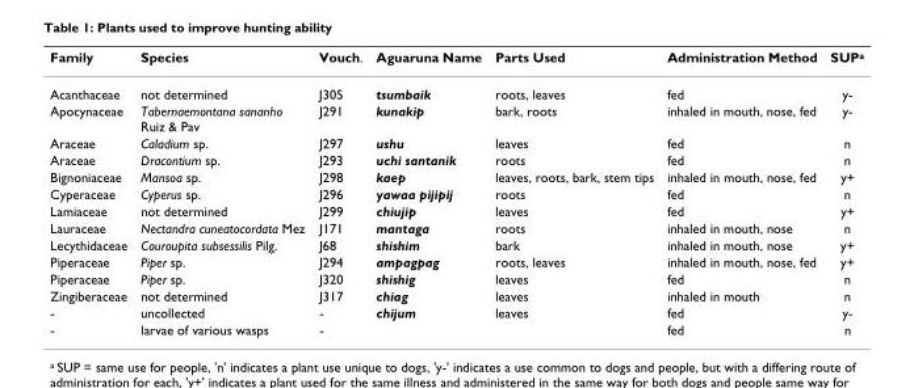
<table><thead><tr><td>Family</td><td>Species</td><td>Vouch.</td><td>Aguaruna Name</td><td>Parts Used</td><td>Administration Method</td><td>SUP<sup>a</sup></td></tr></thead><tbody><tr><td>Acanthaceae</td><td>not determined</td><td>J305</td><td>tsumbaik</td><td>roots, leaves</td><td>fed</td><td>y-</td></tr><tr><td>Apocynaceae</td><td>Tabernaemontana sananho Ruiz &amp; Pav</td><td>J291</td><td>kunakip</td><td>bark, roots</td><td>inhaled in mouth, nose, fed</td><td>y-</td></tr><tr><td>Araceae</td><td>Caladium sp.</td><td>J297</td><td>ushu</td><td>leaves</td><td>fed</td><td>n</td></tr><tr><td>Araceae</td><td>Dracontium sp.</td><td>J293</td><td>uchi santanik</td><td>roots</td><td>fed</td><td>n</td></tr><tr><td>Bignoniaceae</td><td>Mansoa sp.</td><td>J298</td><td>kaep</td><td>leaves, roots, bark, stem tips</td><td>inhaled in mouth, nose, fed</td><td>y+</td></tr><tr><td>Cyperaceae</td><td>Cyperus sp.</td><td>J296</td><td>yawaa pijipij</td><td>roots</td><td>fed</td><td>n</td></tr><tr><td>Lamiaceae</td><td>not determined</td><td>J299</td><td>chiujip</td><td>leaves</td><td>fed</td><td>y+</td></tr><tr><td>Lauraceae</td><td>Nectandra cuneatocordata Mez</td><td>J171</td><td>mantaga</td><td>roots</td><td>inhaled in mouth, nose</td><td>n</td></tr><tr><td>Lecythidaceae</td><td>Couroupita subsessilis Pilg.</td><td>J68</td><td>shishim</td><td>bark</td><td>inhaled in mouth, nose</td><td>y+</td></tr><tr><td>Piperaceae</td><td>Piper sp.</td><td>J294</td><td>ampagpag</td><td>roots, leaves</td><td>inhaled in mouth, nose, fed</td><td>y+</td></tr><tr><td>Piperaceae</td><td>Piper sp.</td><td>J320</td><td>shishig</td><td>leaves</td><td>fed</td><td>n</td></tr><tr><td>Zingiberaceae</td><td>not determined</td><td>J317</td><td>chiag</td><td>leaves</td><td>inhaled in mouth</td><td>n</td></tr><tr><td>-</td><td>uncollected</td><td>-</td><td>chijum</td><td>leaves</td><td>fed</td><td>y-</td></tr><tr><td>-</td><td>larvae of various wasps</td><td>-</td><td></td><td></td><td>fed</td><td>n</td></tr></tbody></table>